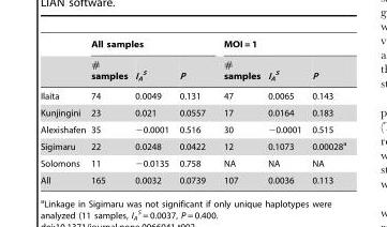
<table><thead><tr><td rowspan="2"></td><td colspan="3">All samples</td><td colspan="3">MOI = 1</td></tr><tr><td># samples</td><td>I<sub>A</sub> <sup>S</sup></td><td>P</td><td># samples</td><td>I<sub>A</sub> <sup>S</sup></td><td>P</td></tr></thead><tbody><tr><td>Ilaita</td><td>74</td><td>0.0049</td><td>0.131</td><td>47</td><td>0.0065</td><td>0.143</td></tr><tr><td>Kunjingini</td><td>23</td><td>0.021</td><td>0.0557</td><td>17</td><td>0.0164</td><td>0.183</td></tr><tr><td>Alexishafen</td><td>35</td><td>−0.0001</td><td>0.516</td><td>30</td><td>−0.0001</td><td>0.515</td></tr><tr><td>Sigimaru</td><td>22</td><td>0.0248</td><td>0.0422</td><td>12</td><td>0.1073</td><td>0.00028<sup>a</sup></td></tr><tr><td>Solomons</td><td>11</td><td>−0.0135</td><td>0.758</td><td>NA</td><td>NA</td><td>NA</td></tr><tr><td>All</td><td>165</td><td>0.0032</td><td>0.0739</td><td>107</td><td>0.0036</td><td>0.113</td></tr></tbody></table>